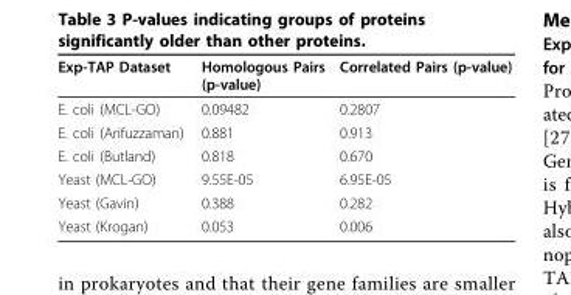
<table><thead><tr><td>Exp-TAP Dataset</td><td>Homologous Pairs (p-value)</td><td>Correlated Pairs (p-value)</td></tr></thead><tbody><tr><td>E. coli (MCL-GO)</td><td>0.09482</td><td>0.2807</td></tr><tr><td>E. coli (Arifuzzaman)</td><td>0.881</td><td>0.913</td></tr><tr><td>E. coli (Butland)</td><td>0.818</td><td>0.670</td></tr><tr><td>Yeast (MCL-GO)</td><td>9.55E-05</td><td>6.95E-05</td></tr><tr><td>Yeast (Gavin)</td><td>0.388</td><td>0.282</td></tr><tr><td>Yeast (Krogan)</td><td>0.053</td><td>0.006</td></tr></tbody></table>